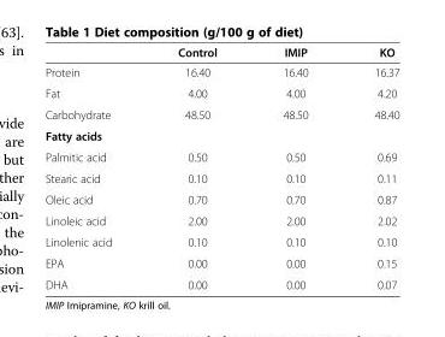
<table><thead><tr><td></td><td>Control</td><td>IMIP</td><td>KO</td></tr></thead><tbody><tr><td>Protein</td><td>16.40</td><td>16.40</td><td>16.37</td></tr><tr><td>Fat</td><td>4.00</td><td>4.00</td><td>4.20</td></tr><tr><td>Carbohydrate</td><td>48.50</td><td>48.50</td><td>48.40</td></tr><tr><td colspan="4">Fatty acids</td></tr><tr><td>Palmitic acid</td><td>0.50</td><td>0.50</td><td>0.69</td></tr><tr><td>Stearic acid</td><td>0.10</td><td>0.10</td><td>0.11</td></tr><tr><td>Oleic acid</td><td>0.70</td><td>0.70</td><td>0.87</td></tr><tr><td>Linoleic acid</td><td>2.00</td><td>2.00</td><td>2.02</td></tr><tr><td>Linolenic acid</td><td>0.10</td><td>0.10</td><td>0.10</td></tr><tr><td>EPA</td><td>0.00</td><td>0.00</td><td>0.15</td></tr><tr><td>DHA</td><td>0.00</td><td>0.00</td><td>0.07</td></tr></tbody></table>